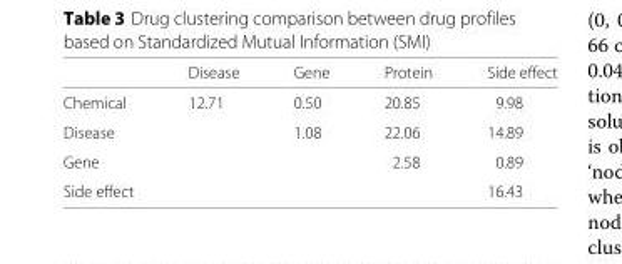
<table><thead><tr><td></td><td>Disease</td><td>Gene</td><td>Protein</td><td>Side effect</td></tr></thead><tbody><tr><td>Chemical</td><td>12.71</td><td>0.50</td><td>20.85</td><td>9.98</td></tr><tr><td>Disease</td><td></td><td>1.08</td><td>22.06</td><td>14.89</td></tr><tr><td>Gene</td><td></td><td></td><td>2.58</td><td>0.89</td></tr><tr><td>Side effect</td><td></td><td></td><td></td><td>16.43</td></tr></tbody></table>